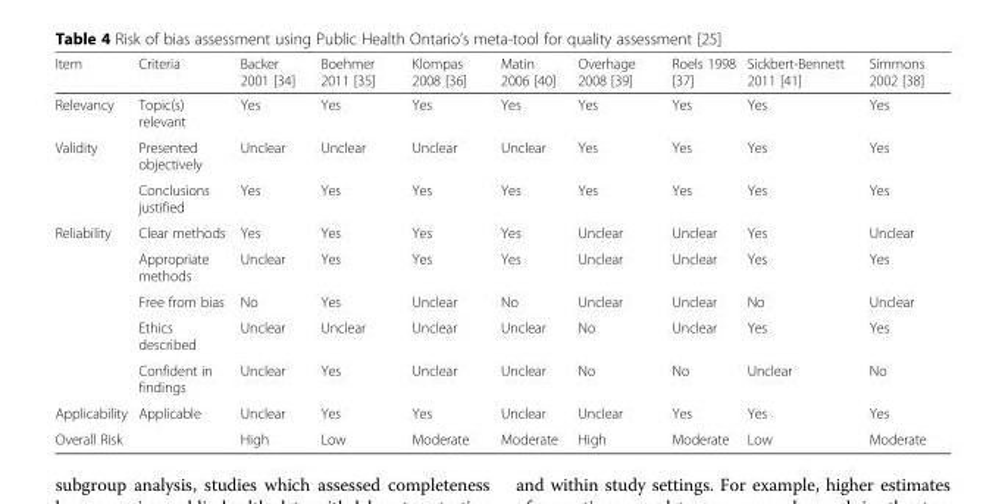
<table><thead><tr><td>Item</td><td>Criteria</td><td>Backer 2001 [34]</td><td>Boehmer 2011 [35]</td><td>Klompas 2008 [36]</td><td>Matin 2006 [40]</td><td>Overhage 2008 [39]</td><td>Roels 1998 [37]</td><td>Sickbert-Bennett 2011 [41]</td><td>Simmons 2002 [38]</td></tr></thead><tbody><tr><td>Relevancy</td><td>Topic(s) relevant</td><td>Yes</td><td>Yes</td><td>Yes</td><td>Yes</td><td>Yes</td><td>Yes</td><td>Yes</td><td>Yes</td></tr><tr><td rowspan="2">Validity</td><td>Presented objectively</td><td>Unclear</td><td>Unclear</td><td>Unclear</td><td>Unclear</td><td>Yes</td><td>Yes</td><td>Yes</td><td>Yes</td></tr><tr><td>Conclusions justified</td><td>Yes</td><td>Yes</td><td>Yes</td><td>Yes</td><td>Yes</td><td>Yes</td><td>Yes</td><td>Yes</td></tr><tr><td rowspan="5">Reliability</td><td>Clear methods</td><td>Yes</td><td>Yes</td><td>Yes</td><td>Yes</td><td>Unclear</td><td>Unclear</td><td>Yes</td><td>Unclear</td></tr><tr><td>Appropriate methods</td><td>Unclear</td><td>Yes</td><td>Yes</td><td>Yes</td><td>Unclear</td><td>Unclear</td><td>Yes</td><td>Yes</td></tr><tr><td>Free from bias</td><td>No</td><td>Yes</td><td>Unclear</td><td>No</td><td>Unclear</td><td>Unclear</td><td>No</td><td>Unclear</td></tr><tr><td>Ethics described</td><td>Unclear</td><td>Unclear</td><td>Unclear</td><td>Unclear</td><td>No</td><td>Unclear</td><td>Yes</td><td>Yes</td></tr><tr><td>Confident in findings</td><td>Unclear</td><td>Yes</td><td>Unclear</td><td>Unclear</td><td>No</td><td>No</td><td>Unclear</td><td>No</td></tr><tr><td>Applicability</td><td>Applicable</td><td>Unclear</td><td>Yes</td><td>Yes</td><td>Unclear</td><td>Unclear</td><td>Yes</td><td>Yes</td><td>Yes</td></tr><tr><td colspan="2">Overall Risk</td><td>High</td><td>Low</td><td>Moderate</td><td>Moderate</td><td>High</td><td>Moderate</td><td>Low</td><td>Moderate</td></tr></tbody></table>